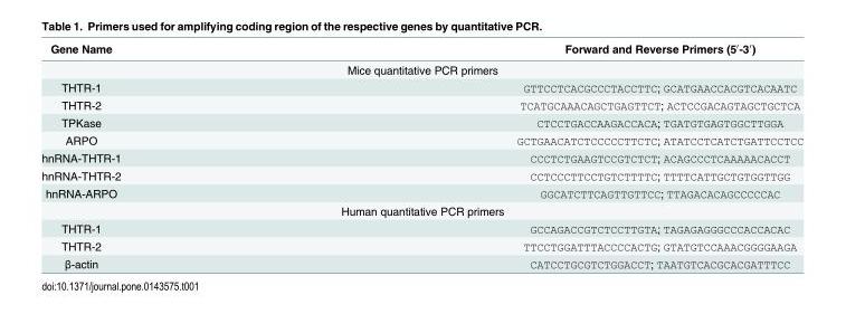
<table><thead><tr><td>Gene Name</td><td>Forward and Reverse Primers (5′-3′)</td></tr></thead><tbody><tr><td colspan="2">Mice quantitative PCR primers</td></tr><tr><td>THTR-1</td><td>GTTCCTCACGCCCTACCTTC; GCATGAACCACGTCACAATC</td></tr><tr><td>THTR-2</td><td>TCATGCAAACAGCTGAGTTCT; ACTCCGACAGTAGCTGCTCA</td></tr><tr><td>TPKase</td><td>CTCCTGACCAAGACCACA; TGATGTGAGTGGCTTGGA</td></tr><tr><td>ARPO</td><td>GCTGAACATCTCCCCCTTCTC; ATATCCTCATCTGATTCCTCC</td></tr><tr><td>hnRNA-THTR-1</td><td>CCCTCTGAAGTCCGTCTCT; ACAGCCCTCAAAAACACCT</td></tr><tr><td>hnRNA-THTR-2</td><td>CCTCCCTTCCTGTCTTTTC; TTTTCATTGCTGTGGTTGG</td></tr><tr><td>hnRNA-ARPO</td><td>GGCATCTTCAGTTGTTCC; TTAGACACAGCCCCCAC</td></tr><tr><td colspan="2">Human quantitative PCR primers</td></tr><tr><td>THTR-1</td><td>GCCAGACCGTCTCCTTGTA; TAGAGAGGGCCCACCACAC</td></tr><tr><td>THTR-2</td><td>TTCCTGGATTTACCCCACTG; GTATGTCCAAACGGGGAAGA</td></tr><tr><td>β-actin</td><td>CATCCTGCGTCTGGACCT; TAATGTCACGCACGATTTCC</td></tr></tbody></table>